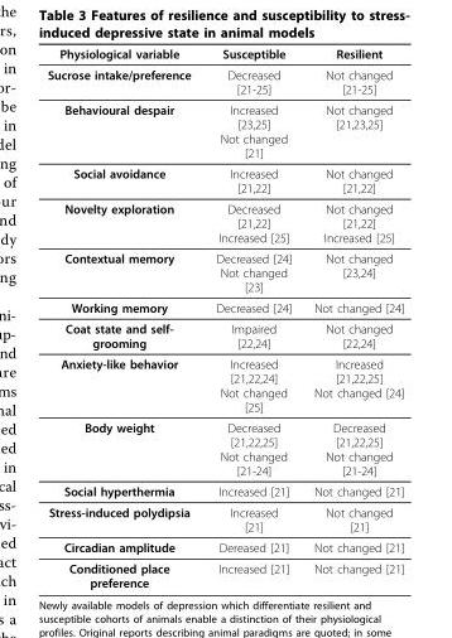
<table><thead><tr><td>Physiological variable</td><td>Susceptible</td><td>Resilient</td></tr></thead><tbody><tr><td>Sucrose intake/preference</td><td>Decreased [21-25]</td><td>Not changed [21-25]</td></tr><tr><td>Behavioural despair</td><td>Increased [23,25] Not changed [21]</td><td>Not changed [21,23,25]</td></tr><tr><td>Social avoidance</td><td>Increased [21,22]</td><td>Not changed [21,22]</td></tr><tr><td>Novelty exploration</td><td>Decreased [21,22] Increased [25]</td><td>Not changed [21,22] Increased [25]</td></tr><tr><td>Contextual memory</td><td>Decreased [24] Not changed [23]</td><td>Not changed [23,24]</td></tr><tr><td>Working memory</td><td>Decreased [24]</td><td>Not changed [24]</td></tr><tr><td>Coat state and self- grooming</td><td>Impaired [22,24]</td><td>Not changed [22,24]</td></tr><tr><td>Anxiety-like behavior</td><td>Increased [21,22,24] Not changed [25]</td><td>Increased [21,22,25] Not changed [24]</td></tr><tr><td>Body weight</td><td>Decreased [21,22,25] Not changed [21-24]</td><td>Decreased [21,22,25] Not changed [21-24]</td></tr><tr><td>Social hyperthermia</td><td>Increased [21]</td><td>Not changed [21]</td></tr><tr><td>Stress-induced polydipsia</td><td>Increased [21]</td><td>Not changed [21]</td></tr><tr><td>Circadian amplitude</td><td>Dereased [21]</td><td>Not changed [21]</td></tr><tr><td>Conditioned place preference</td><td>Increased [21]</td><td>Not changed [21]</td></tr></tbody></table>